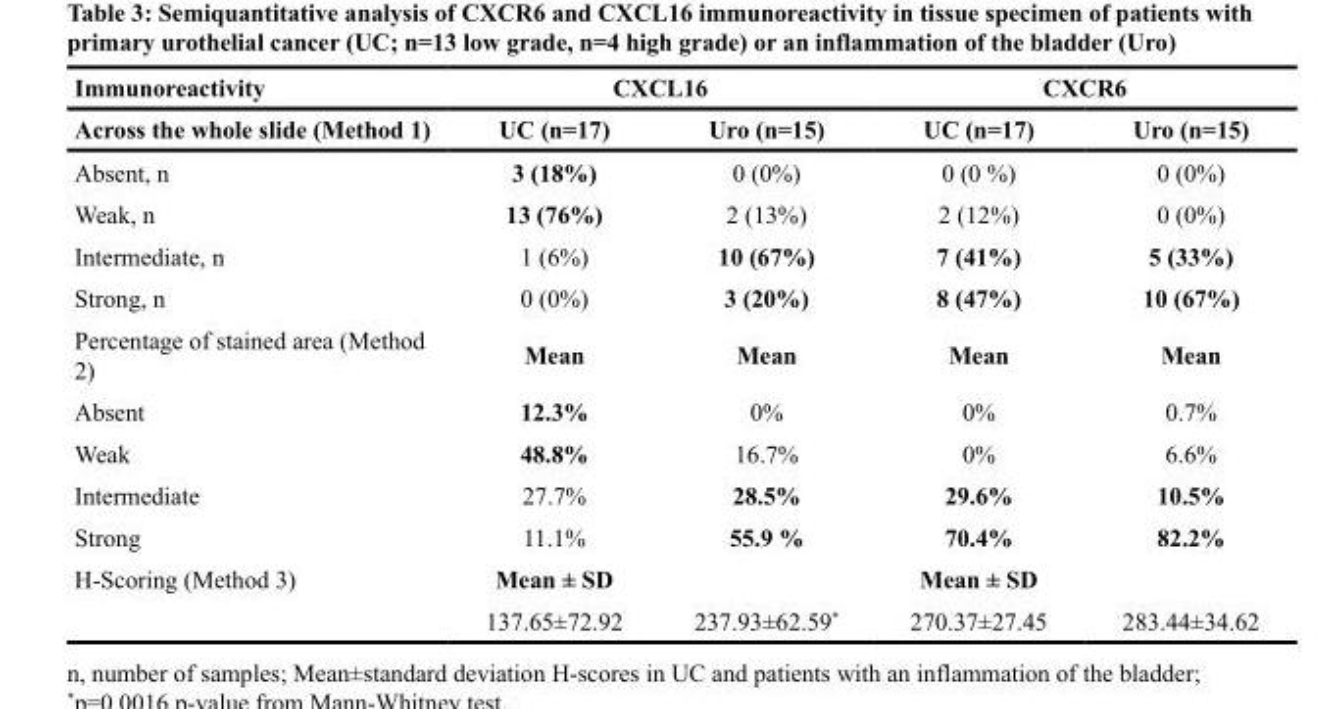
<table><thead><tr><td rowspan="2">Immunoreactivity Across the whole slide (Method 1)</td><td colspan="2">CXCL16</td><td colspan="2">CXCR6</td></tr><tr><td>UC (n=17)</td><td>Uro (n=15)</td><td>UC (n=17)</td><td>Uro (n=15)</td></tr></thead><tbody><tr><td>Absent, n</td><td>3 (18%)</td><td>0 (0%)</td><td>0 (0 %)</td><td>0 (0%)</td></tr><tr><td>Weak, n</td><td>13 (76%)</td><td>2 (13%)</td><td>2 (12%)</td><td>0 (0%)</td></tr><tr><td>Intermediate, n</td><td>1 (6%)</td><td>10 (67%)</td><td>7 (41%)</td><td>5 (33%)</td></tr><tr><td>Strong, n</td><td>0 (0%)</td><td>3 (20%)</td><td>8 (47%)</td><td>10 (67%)</td></tr><tr><td>Percentage of stained area (Method 2)</td><td>Mean</td><td>Mean</td><td>Mean</td><td>Mean</td></tr><tr><td>Absent</td><td>12.3%</td><td>0%</td><td>0%</td><td>0.7%</td></tr><tr><td>Weak</td><td>48.8%</td><td>16.7%</td><td>0%</td><td>6.6%</td></tr><tr><td>Intermediate</td><td>27.7%</td><td>28.5%</td><td>29.6%</td><td>10.5%</td></tr><tr><td>Strong</td><td>11.1%</td><td>55.9 %</td><td>70.4%</td><td>82.2%</td></tr><tr><td rowspan="2">H-Scoring (Method 3)</td><td>Mean ± SD</td><td></td><td>Mean ± SD</td><td></td></tr><tr><td>137.65±72.92</td><td>237.93±62.59*</td><td>270.37±27.45</td><td>283.44±34.62</td></tr></tbody></table>